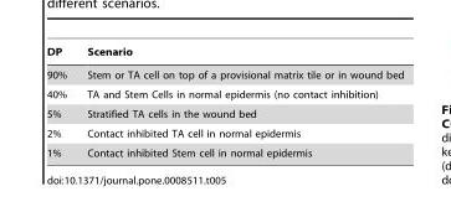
<table><thead><tr><td>DP</td><td>Scenario</td></tr></thead><tbody><tr><td>90%</td><td>Stem or TA cell on top of a provisional matrix tile or in wound bed</td></tr><tr><td>40%</td><td>TA and Stem Cells in normal epidermis (no contact inhibition)</td></tr><tr><td>5%</td><td>Stratified TA cells in the wound bed</td></tr><tr><td>2%</td><td>Contact inhibited TA cell in normal epidermis</td></tr><tr><td>1%</td><td>Contact inhibited Stem cell in normal epidermis</td></tr></tbody></table>